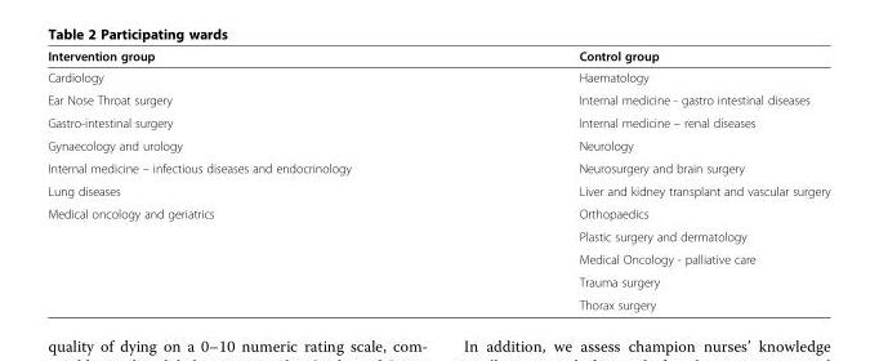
<table><thead><tr><td>Intervention group</td><td>Control group</td></tr></thead><tbody><tr><td>Cardiology</td><td>Haematology</td></tr><tr><td>Ear Nose Throat surgery</td><td>Internal medicine - gastro intestinal diseases</td></tr><tr><td>Gastro-intestinal surgery</td><td>Internal medicine – renal diseases</td></tr><tr><td>Gynaecology and urology</td><td>Neurology</td></tr><tr><td>Internal medicine – infectious diseases and endocrinology</td><td>Neurosurgery and brain surgery</td></tr><tr><td>Lung diseases</td><td>Liver and kidney transplant and vascular surgery</td></tr><tr><td rowspan="5">Medical oncology and geriatrics</td><td>Orthopaedics</td></tr><tr><td>Plastic surgery and dermatology</td></tr><tr><td>Medical Oncology - palliative care</td></tr><tr><td>Trauma surgery</td></tr><tr><td>Thorax surgery</td></tr></tbody></table>